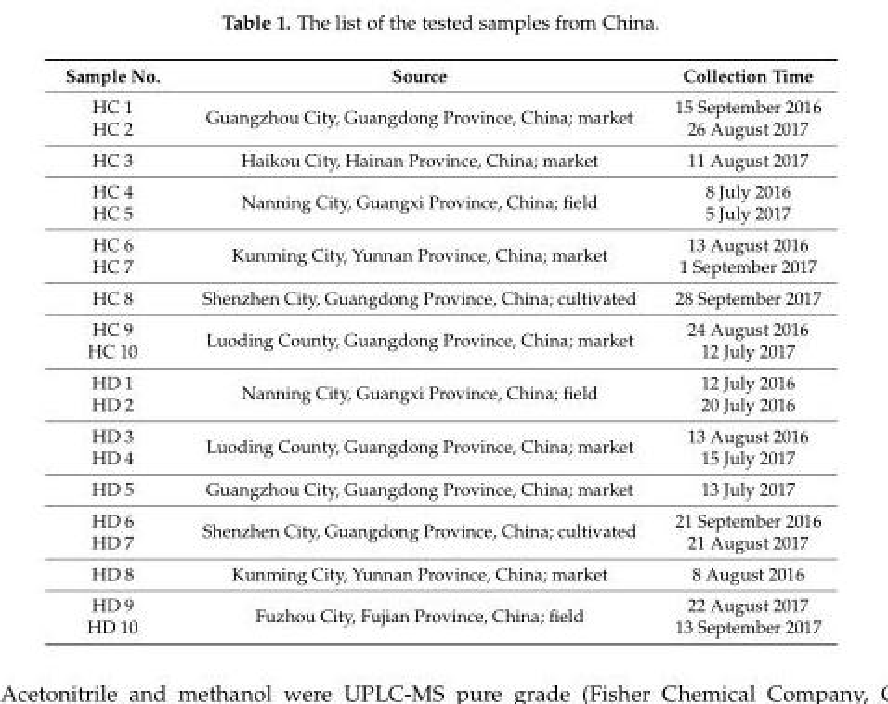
<table><thead><tr><td>Sample No.</td><td>Source</td><td>Collection Time</td></tr></thead><tbody><tr><td>HC 1</td><td rowspan="2">Guangzhou City, Guangdong Province, China; market</td><td>15 September 2016</td></tr><tr><td>HC 2</td><td>26 August 2017</td></tr><tr><td>HC 3</td><td>Haikou City, Hainan Province, China; market</td><td>11 August 2017</td></tr><tr><td>HC 4</td><td rowspan="2">Nanning City, Guangxi Province, China; field</td><td>8 July 2016</td></tr><tr><td>HC 5</td><td>5 July 2017</td></tr><tr><td>HC 6</td><td rowspan="2">Kunming City, Yunnan Province, China; market</td><td>13 August 2016</td></tr><tr><td>HC 7</td><td>1 September 2017</td></tr><tr><td>HC 8</td><td>Shenzhen City, Guangdong Province, China; cultivated</td><td>28 September 2017</td></tr><tr><td>HC 9</td><td rowspan="2">Luoding County, Guangdong Province, China; market</td><td>24 August 2016</td></tr><tr><td>HC 10</td><td>12 July 2017</td></tr><tr><td>HD 1</td><td rowspan="2">Nanning City, Guangxi Province, China; field</td><td>12 July 2016</td></tr><tr><td>HD 2</td><td>20 July 2016</td></tr><tr><td>HD 3</td><td rowspan="2">Luoding County, Guangdong Province, China; market</td><td>13 August 2016</td></tr><tr><td>HD 4</td><td>15 July 2017</td></tr><tr><td>HD 5</td><td>Guangzhou City, Guangdong Province, China; market</td><td>13 July 2017</td></tr><tr><td>HD 6</td><td rowspan="2">Shenzhen City, Guangdong Province, China; cultivated</td><td>21 September 2016</td></tr><tr><td>HD 7</td><td>21 August 2017</td></tr><tr><td>HD 8</td><td>Kunming City, Yunnan Province, China; market</td><td>8 August 2016</td></tr><tr><td>HD 9</td><td rowspan="2">Fuzhou City, Fujian Province, China; field</td><td>22 August 2017</td></tr><tr><td>HD 10</td><td>13 September 2017</td></tr></tbody></table>